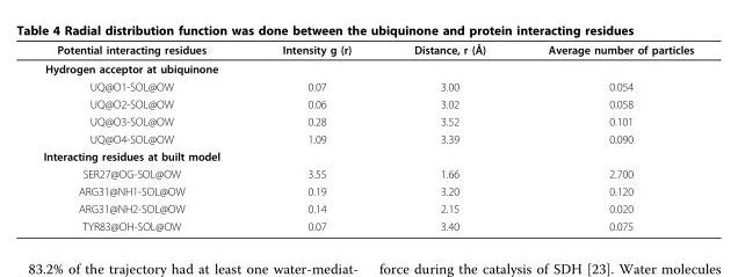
<table><thead><tr><td>Potential interacting residues</td><td>Intensity g (r)</td><td>Distance, r (Å)</td><td>Average number of particles</td></tr></thead><tbody><tr><td colspan="4">Hydrogen acceptor at ubiquinone</td></tr><tr><td>UQ@O1-SOL@OW</td><td>0.07</td><td>3.00</td><td>0.054</td></tr><tr><td>UQ@O2-SOL@OW</td><td>0.06</td><td>3.02</td><td>0.058</td></tr><tr><td>UQ@O3-SOL@OW</td><td>0.28</td><td>3.52</td><td>0.101</td></tr><tr><td>UQ@O4-SOL@OW</td><td>1.09</td><td>3.39</td><td>0.090</td></tr><tr><td colspan="4">Interacting residues at built model</td></tr><tr><td>SER27@OG-SOL@OW</td><td>3.55</td><td>1.66</td><td>2.700</td></tr><tr><td>ARG31@NH1-SOL@OW</td><td>0.19</td><td>3.20</td><td>0.120</td></tr><tr><td>ARG31@NH2-SOL@OW</td><td>0.14</td><td>2.15</td><td>0.020</td></tr><tr><td>TYR83@OH-SOL@OW</td><td>0.07</td><td>3.40</td><td>0.075</td></tr></tbody></table>